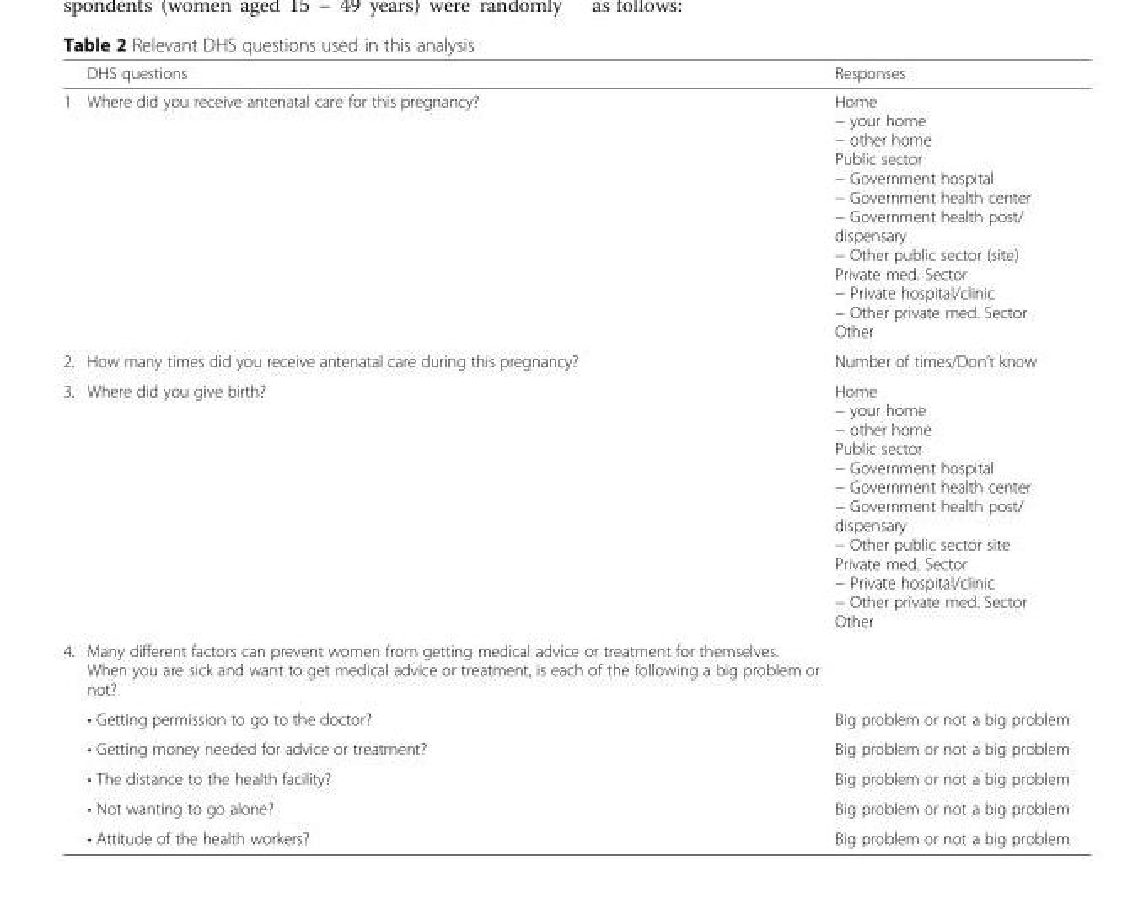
<table><thead><tr><td></td><td>DHS questions</td><td>Responses</td></tr></thead><tbody><tr><td>1</td><td>Where did you receive antenatal care for this pregnancy?</td><td>Home − your home − other home Public sector − Government hospital − Government health center − Government health post/ dispensary − Other public sector (site) Private med. Sector − Private hospital/clinic − Other private med. Sector Other</td></tr><tr><td>2.</td><td>How many times did you receive antenatal care during this pregnancy?</td><td>Number of times/Don’t know</td></tr><tr><td>3.</td><td>Where did you give birth?</td><td>Home − your home − other home Public sector − Government hospital − Government health center − Government health post/ dispensary − Other public sector site Private med. Sector − Private hospital/clinic − Other private med. Sector Other</td></tr><tr><td rowspan="6">4.</td><td>Many different factors can prevent women from getting medical advice or treatment for themselves. When you are sick and want to get medical advice or treatment, is each of the following a big problem or not?</td><td></td></tr><tr><td>• Getting permission to go to the doctor?</td><td>Big problem or not a big problem</td></tr><tr><td>• Getting money needed for advice or treatment?</td><td>Big problem or not a big problem</td></tr><tr><td>• The distance to the health facility?</td><td>Big problem or not a big problem</td></tr><tr><td>• Not wanting to go alone?</td><td>Big problem or not a big problem</td></tr><tr><td>• Attitude of the health workers?</td><td>Big problem or not a big problem</td></tr></tbody></table>